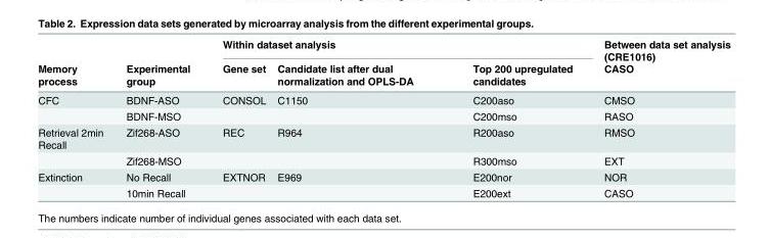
<table><thead><tr><td rowspan="2">Memory process</td><td rowspan="2">Experimental group</td><td colspan="3">Within dataset analysis</td><td rowspan="2">Between data set analysis (CRE1016) CASO</td></tr><tr><td>Gene set</td><td>Candidate list after dual normalization and OPLS-DA</td><td>Top 200 upregulated candidates</td></tr></thead><tbody><tr><td rowspan="2">CFC</td><td>BDNF-ASO</td><td>CONSOL</td><td>C1150</td><td>C200aso</td><td>CMSO</td></tr><tr><td>BDNF-MSO</td><td></td><td></td><td>C200mso</td><td>RASO</td></tr><tr><td rowspan="2">Retrieval 2min Recall</td><td>Zif268-ASO</td><td>REC</td><td>R964</td><td>R200aso</td><td>RMSO</td></tr><tr><td>Zif268-MSO</td><td></td><td></td><td>R300mso</td><td>EXT</td></tr><tr><td rowspan="2">Extinction</td><td>No Recall</td><td>EXTNOR</td><td>E969</td><td>E200nor</td><td>NOR</td></tr><tr><td>10min Recall</td><td></td><td></td><td>E200ext</td><td>CASO</td></tr></tbody></table>